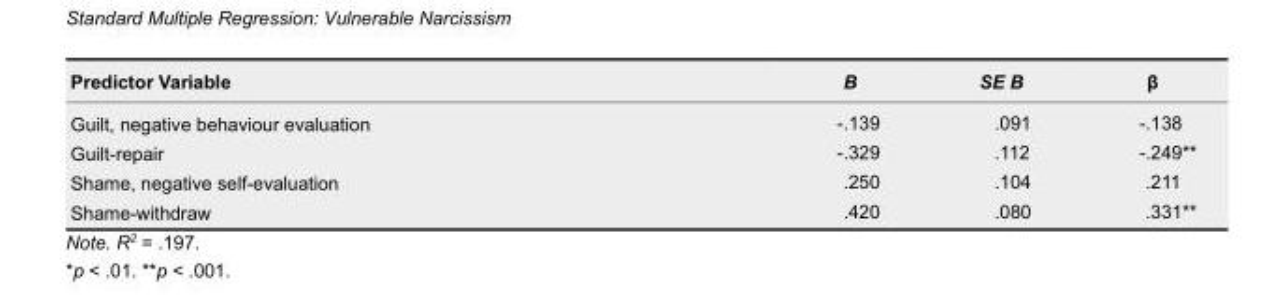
<table><thead><tr><td>Predictor Variable</td><td>B</td><td>SE B</td><td>β</td></tr></thead><tbody><tr><td>Guilt, negative behaviour evaluation</td><td>-.139</td><td>.091</td><td>-.138</td></tr><tr><td>Guilt-repair</td><td>-.329</td><td>.112</td><td>-.249**</td></tr><tr><td>Shame, negative self-evaluation</td><td>.250</td><td>.104</td><td>.211</td></tr><tr><td>Shame-withdraw</td><td>.420</td><td>.080</td><td>.331**</td></tr></tbody></table>